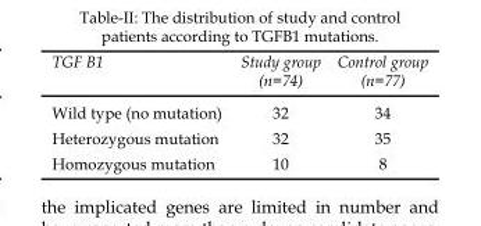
<table><thead><tr><td>TGF B1</td><td>Study group (n=74)</td><td>Control group (n=77)</td></tr></thead><tbody><tr><td>Wild type (no mutation)</td><td>32</td><td>34</td></tr><tr><td>Heterozygous mutation</td><td>32</td><td>35</td></tr><tr><td>Homozygous mutation</td><td>10</td><td>8</td></tr></tbody></table>